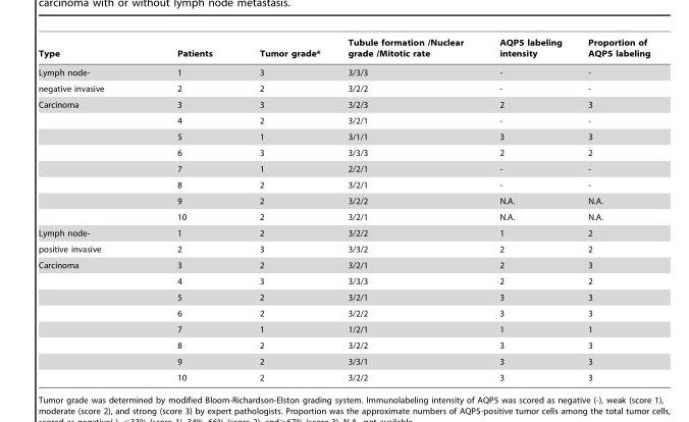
<table><thead><tr><td>Type</td><td>Patients</td><td>Tumor grade*</td><td>Tubule formation /Nuclear grade /Mitotic rate</td><td>AQP5 labeling intensity</td><td>Proportion of AQP5 labeling</td></tr></thead><tbody><tr><td>Lymph node-</td><td>1</td><td>3</td><td>3/3/3</td><td>-</td><td>-</td></tr><tr><td>negative invasive</td><td>2</td><td>2</td><td>3/2/2</td><td>-</td><td>-</td></tr><tr><td rowspan="8">Carcinoma</td><td>3</td><td>3</td><td>3/2/3</td><td>2</td><td>3</td></tr><tr><td>4</td><td>2</td><td>3/2/1</td><td>-</td><td>-</td></tr><tr><td>5</td><td>1</td><td>3/1/1</td><td>3</td><td>3</td></tr><tr><td>6</td><td>3</td><td>3/3/3</td><td>2</td><td>2</td></tr><tr><td>7</td><td>1</td><td>2/2/1</td><td>-</td><td>-</td></tr><tr><td>8</td><td>2</td><td>3/2/1</td><td>-</td><td>-</td></tr><tr><td>9</td><td>2</td><td>3/2/2</td><td>N.A.</td><td>N.A.</td></tr><tr><td>10</td><td>2</td><td>3/2/1</td><td>N.A.</td><td>N.A.</td></tr><tr><td>Lymph node-</td><td>1</td><td>2</td><td>3/2/2</td><td>1</td><td>2</td></tr><tr><td>positive invasive</td><td>2</td><td>3</td><td>3/3/2</td><td>2</td><td>2</td></tr><tr><td rowspan="8">Carcinoma</td><td>3</td><td>2</td><td>3/2/1</td><td>2</td><td>3</td></tr><tr><td>4</td><td>3</td><td>3/3/3</td><td>2</td><td>2</td></tr><tr><td>5</td><td>2</td><td>3/2/1</td><td>3</td><td>3</td></tr><tr><td>6</td><td>2</td><td>3/2/2</td><td>3</td><td>3</td></tr><tr><td>7</td><td>1</td><td>1/2/1</td><td>1</td><td>1</td></tr><tr><td>8</td><td>2</td><td>3/2/2</td><td>3</td><td>3</td></tr><tr><td>9</td><td>2</td><td>3/3/1</td><td>3</td><td>3</td></tr><tr><td>10</td><td>2</td><td>3/2/2</td><td>3</td><td>3</td></tr></tbody></table>